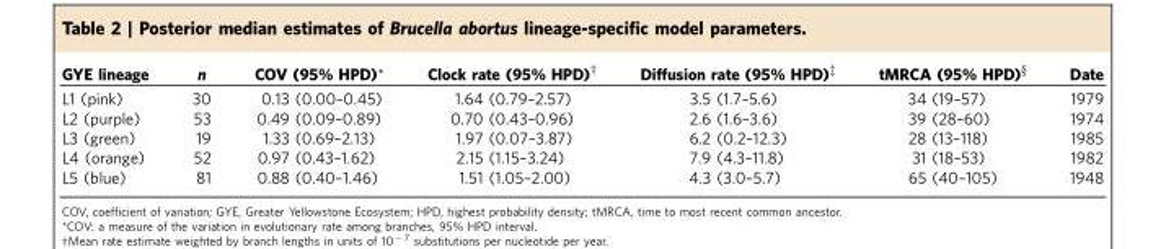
<table><thead><tr><td>GYE lineage</td><td>n</td><td>COV (95% HPD)*</td><td>Clock rate (95% HPD)†</td><td>Diffusion rate (95% HPD)‡</td><td>tMRCA (95% HPD)§</td><td>Date</td></tr></thead><tbody><tr><td>L1 (pink)</td><td>30</td><td>0.13 (0.00–0.45)</td><td>1.64 (0.79–2.57)</td><td>3.5 (1.7–5.6)</td><td>34 (19–57)</td><td>1979</td></tr><tr><td>L2 (purple)</td><td>53</td><td>0.49 (0.09–0.89)</td><td>0.70 (0.43–0.96)</td><td>2.6 (1.6–3.6)</td><td>39 (28–60)</td><td>1974</td></tr><tr><td>L3 (green)</td><td>19</td><td>1.33 (0.69–2.13)</td><td>1.97 (0.07–3.87)</td><td>6.2 (0.2–12.3)</td><td>28 (13–118)</td><td>1985</td></tr><tr><td>L4 (orange)</td><td>52</td><td>0.97 (0.43–1.62)</td><td>2.15 (1.15–3.24)</td><td>7.9 (4.3–11.8)</td><td>31 (18–53)</td><td>1982</td></tr><tr><td>L5 (blue)</td><td>81</td><td>0.88 (0.40–1.46)</td><td>1.51 (1.05–2.00)</td><td>4.3 (3.0–5.7)</td><td>65 (40–105)</td><td>1948</td></tr></tbody></table>